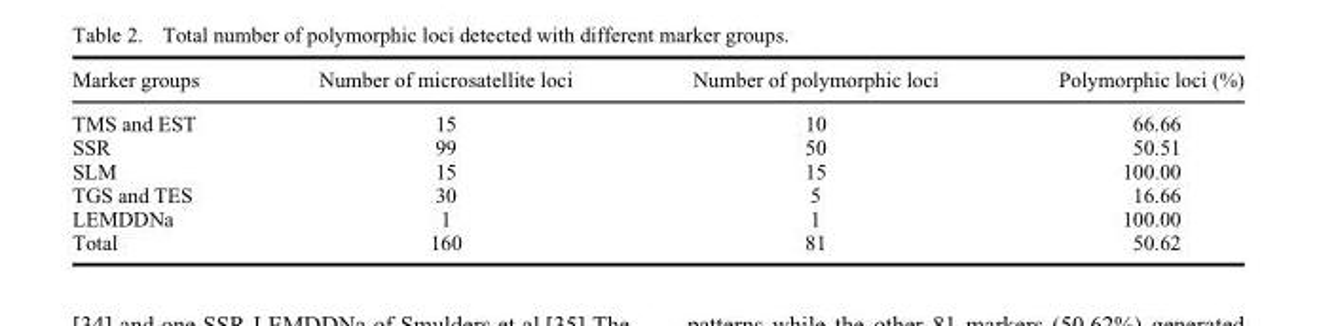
<table><thead><tr><td>Marker groups</td><td>Number of microsatellite loci</td><td>Number of polymorphic loci</td><td>Polymorphic loci (%)</td></tr></thead><tbody><tr><td>TMS and EST</td><td>15</td><td>10</td><td>66.66</td></tr><tr><td>SSR</td><td>99</td><td>50</td><td>50.51</td></tr><tr><td>SLM</td><td>15</td><td>15</td><td>100.00</td></tr><tr><td>TGS and TES</td><td>30</td><td>5</td><td>16.66</td></tr><tr><td>LEMDDNa</td><td>1</td><td>1</td><td>100.00</td></tr><tr><td>Total</td><td>160</td><td>81</td><td>50.62</td></tr></tbody></table>